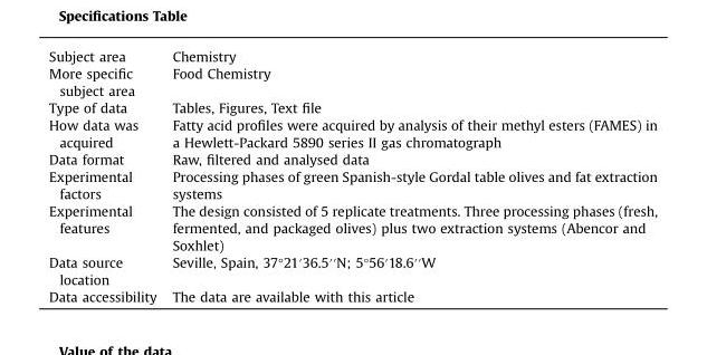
<table><tbody><tr><td>Subject area</td><td>Chemistry</td></tr><tr><td>More specific subject area</td><td>Food Chemistry</td></tr><tr><td>Type of data</td><td>Tables, Figures, Text file</td></tr><tr><td>How data was acquired</td><td>Fatty acid profiles were acquired by analysis of their methyl esters (FAMES) in a Hewlett-Packard 5890 series II gas chromatograph</td></tr><tr><td>Data format</td><td>Raw, filtered and analysed data</td></tr><tr><td>Experimental factors</td><td>Processing phases of green Spanish-style Gordal table olives and fat extraction systems</td></tr><tr><td>Experimental features</td><td>The design consisted of 5 replicate treatments. Three processing phases (fresh, fermented, and packaged olives) plus two extraction systems (Abencor and Soxhlet)</td></tr><tr><td>Data source location</td><td>Seville, Spain, 37°21′36.5′′N; 5°56′18.6′′W</td></tr><tr><td>Data accessibility</td><td>The data are available with this article</td></tr></tbody></table>